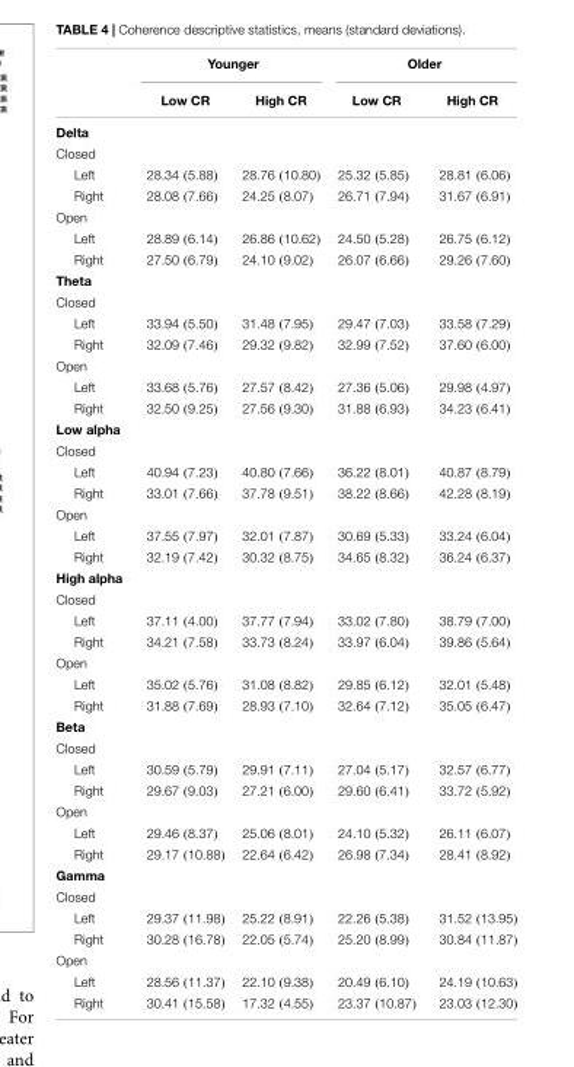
<table><thead><tr><td rowspan="2"></td><td colspan="2">Younger</td><td colspan="2">Older</td></tr><tr><td>Low CR</td><td>High CR</td><td>Low CR</td><td>High CR</td></tr></thead><tbody><tr><td colspan="5">Delta</td></tr><tr><td colspan="5">Closed</td></tr><tr><td>Left</td><td>28.34 (5.88)</td><td>28.76 (10.80)</td><td>25.32 (5.85)</td><td>28.81 (6.06)</td></tr><tr><td>Right</td><td>28.08 (7.66)</td><td>24.25 (8.07)</td><td>26.71 (7.94)</td><td>31.67 (6.91)</td></tr><tr><td colspan="5">Open</td></tr><tr><td>Left</td><td>28.89 (6.14)</td><td>26.86 (10.62)</td><td>24.50 (5.28)</td><td>26.75 (6.12)</td></tr><tr><td>Right</td><td>27.50 (6.79)</td><td>24.10 (9.02)</td><td>26.07 (6.66)</td><td>29.26 (7.60)</td></tr><tr><td colspan="5">Theta</td></tr><tr><td colspan="5">Closed</td></tr><tr><td>Left</td><td>33.94 (5.50)</td><td>31.48 (7.95)</td><td>29.47 (7.03)</td><td>33.58 (7.29)</td></tr><tr><td>Right</td><td>32.09 (7.46)</td><td>29.32 (9.82)</td><td>32.99 (7.52)</td><td>37.60 (6.00)</td></tr><tr><td colspan="5">Open</td></tr><tr><td>Left</td><td>33.68 (5.76)</td><td>27.57 (8.42)</td><td>27.36 (5.06)</td><td>29.98 (4.97)</td></tr><tr><td>Right</td><td>32.50 (9.25)</td><td>27.56 (9.30)</td><td>31.88 (6.93)</td><td>34.23 (6.41)</td></tr><tr><td colspan="5">Low alpha</td></tr><tr><td colspan="5">Closed</td></tr><tr><td>Left</td><td>40.94 (7.23)</td><td>40.80 (7.66)</td><td>36.22 (8.01)</td><td>40.87 (8.79)</td></tr><tr><td>Right</td><td>33.01 (7.66)</td><td>37.78 (9.51)</td><td>38.22 (8.66)</td><td>42.28 (8.19)</td></tr><tr><td colspan="5">Open</td></tr><tr><td>Left</td><td>37.55 (7.97)</td><td>32.01 (7.87)</td><td>30.69 (5.33)</td><td>33.24 (6.04)</td></tr><tr><td>Right</td><td>32.19 (7.42)</td><td>30.32 (8.75)</td><td>34.65 (8.32)</td><td>36.24 (6.37)</td></tr><tr><td colspan="5">High alpha</td></tr><tr><td colspan="5">Closed</td></tr><tr><td>Left</td><td>37.11 (4.00)</td><td>37.77 (7.94)</td><td>33.02 (7.80)</td><td>38.79 (7.00)</td></tr><tr><td>Right</td><td>34.21 (7.58)</td><td>33.73 (8.24)</td><td>33.97 (6.04)</td><td>39.86 (5.64)</td></tr><tr><td colspan="5">Open</td></tr><tr><td>Left</td><td>35.02 (5.76)</td><td>31.08 (8.82)</td><td>29.85 (6.12)</td><td>32.01 (5.48)</td></tr><tr><td>Right</td><td>31.88 (7.69)</td><td>28.93 (7.10)</td><td>32.64 (7.12)</td><td>35.05 (6.47)</td></tr><tr><td colspan="5">Beta</td></tr><tr><td colspan="5">Closed</td></tr><tr><td>Left</td><td>30.59 (5.79)</td><td>29.91 (7.11)</td><td>27.04 (5.17)</td><td>32.57 (6.77)</td></tr><tr><td>Right</td><td>29.67 (9.03)</td><td>27.21 (6.00)</td><td>29.60 (6.41)</td><td>33.72 (5.92)</td></tr><tr><td colspan="5">Open</td></tr><tr><td>Left</td><td>29.46 (8.37)</td><td>25.06 (8.01)</td><td>24.10 (5.32)</td><td>26.11 (6.07)</td></tr><tr><td>Right</td><td>29.17 (10.88)</td><td>22.64 (6.42)</td><td>26.98 (7.34)</td><td>28.41 (8.92)</td></tr><tr><td colspan="5">Gamma</td></tr><tr><td colspan="5">Closed</td></tr><tr><td>Left</td><td>29.37 (11.98)</td><td>25.22 (8.91)</td><td>22.26 (5.38)</td><td>31.52 (13.95)</td></tr><tr><td>Right</td><td>30.28 (16.78)</td><td>22.05 (5.74)</td><td>25.20 (8.99)</td><td>30.84 (11.87)</td></tr><tr><td colspan="5">Open</td></tr><tr><td>Left</td><td>28.56 (11.37)</td><td>22.10 (9.38)</td><td>20.49 (6.10)</td><td>24.19 (10.63)</td></tr><tr><td>Right</td><td>30.41 (15.58)</td><td>17.32 (4.55)</td><td>23.37 (10.87)</td><td>23.03 (12.30)</td></tr></tbody></table>